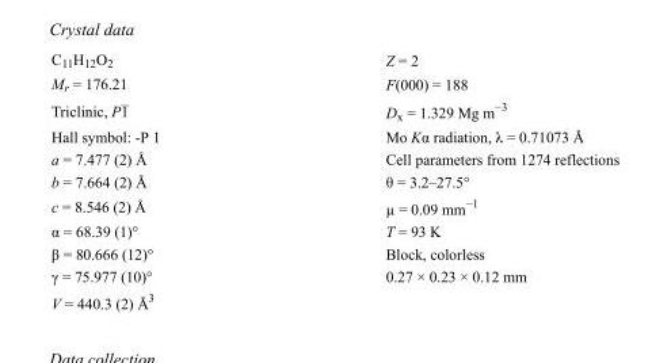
<table><tbody><tr><td>C<sub>11</sub>H<sub>12</sub>O<sub>2</sub></td><td>Z = 2</td></tr><tr><td>M<sub>r</sub> = 176.21</td><td>F(000) = 188</td></tr><tr><td>Triclinic, P1</td><td>D<sub>x</sub> = 1.329 Mg m<sup>−3</sup></td></tr><tr><td>Hall symbol: -P 1</td><td>Mo Kα radiation, λ = 0.71073 Å</td></tr><tr><td>a = 7.477 (2) Å</td><td>Cell parameters from 1274 reflections</td></tr><tr><td>b = 7.664 (2) Å</td><td>θ = 3.2–27.5°</td></tr><tr><td>c = 8.546 (2) Å</td><td>µ = 0.09 mm<sup>−1</sup></td></tr><tr><td>α = 68.39 (1)°</td><td>T = 93 K</td></tr><tr><td>β = 80.666 (12)°</td><td>Block, colorless</td></tr><tr><td>γ = 75.977 (10)°</td><td>0.27 × 0.23 × 0.12 mm</td></tr><tr><td>V = 440.3 (2) Å<sup>3</sup></td><td></td></tr></tbody></table>